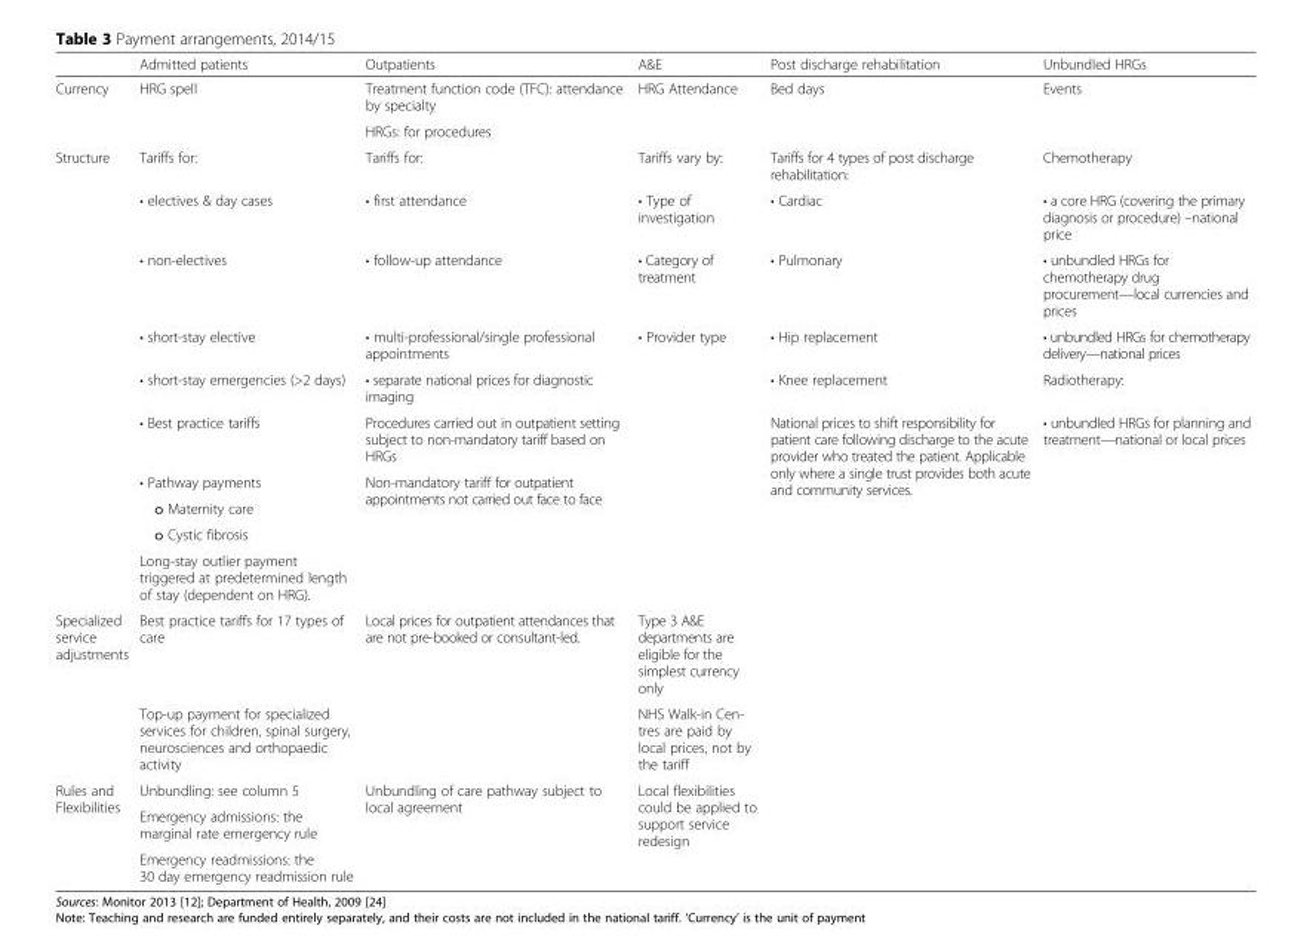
<table><thead><tr><td></td><td>Admitted patients</td><td>Outpatients</td><td>A&amp;E</td><td>Post discharge rehabilitation</td><td>Unbundled HRGs</td></tr></thead><tbody><tr><td rowspan="2">Currency</td><td rowspan="2">HRG spell</td><td>Treatment function code (TFC): attendance by specialty</td><td rowspan="2">HRG Attendance</td><td rowspan="2">Bed days</td><td rowspan="2">Events</td></tr><tr><td>HRGs: for procedures</td></tr><tr><td rowspan="10">Structure</td><td>Tariffs for:</td><td>Tariffs for:</td><td>Tariffs vary by:</td><td>Tariffs for 4 types of post discharge rehabilitation:</td><td>Chemotherapy</td></tr><tr><td>• electives &amp; day cases</td><td>• first attendance</td><td>• Type of investigation</td><td>• Cardiac</td><td>• a core HRG (covering the primary diagnosis or procedure) –national price</td></tr><tr><td>• non-electives</td><td>• follow-up attendance</td><td>• Category of treatment</td><td>• Pulmonary</td><td>• unbundled HRGs for chemotherapy drug procurement—local currencies and prices</td></tr><tr><td>• short-stay elective</td><td>• multi-professional/single professional appointments</td><td rowspan="7">• Provider type</td><td>• Hip replacement</td><td>• unbundled HRGs for chemotherapy delivery—national prices</td></tr><tr><td>• short-stay emergencies (&gt;2 days)</td><td>• separate national prices for diagnostic imaging</td><td>• Knee replacement</td><td>Radiotherapy:</td></tr><tr><td>• Best practice tariffs</td><td>Procedures carried out in outpatient setting subject to non-mandatory tariff based on HRGs</td><td rowspan="10">National prices to shift responsibility for patient care following discharge to the acute provider who treated the patient. Applicable only where a single trust provides both acute and community services.</td><td rowspan="10">• unbundled HRGs for planning and treatment—national or local prices</td></tr><tr><td>• Pathway payments</td><td rowspan="4">Non-mandatory tariff for outpatient appointments not carried out face to face</td></tr><tr><td>o Maternity care</td></tr><tr><td>o Cystic fibrosis</td></tr><tr><td>Long-stay outlier payment triggered at predetermined length of stay (dependent on HRG).</td></tr><tr><td rowspan="2">Specialized service adjustments</td><td>Best practice tariffs for 17 types of care</td><td rowspan="2">Local prices for outpatient attendances that are not pre-booked or consultant-led.</td><td>Type 3 A&amp;E departments are eligible for the simplest currency only</td></tr><tr><td>Top-up payment for specialized services for children, spinal surgery, neurosciences and orthopaedic activity</td><td>NHS Walk-in Cen- tres are paid by local prices, not by the tariff</td></tr><tr><td rowspan="3">Rules and Flexibilities</td><td>Unbundling: see column 5</td><td rowspan="3">Unbundling of care pathway subject to local agreement</td><td rowspan="3">Local flexibilities could be applied to support service redesign</td></tr><tr><td>Emergency admissions: the marginal rate emergency rule</td></tr><tr><td>Emergency readmissions: the 30 day emergency readmission rule</td></tr></tbody></table>